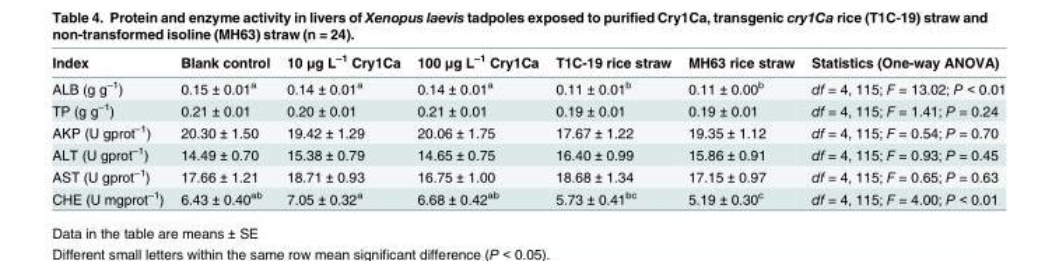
<table><thead><tr><td>Index</td><td>Blank control</td><td>10 μg L<sup>–1</sup> Cry1Ca</td><td>100 μg L<sup>–1</sup> Cry1Ca</td><td>T1C-19 rice straw</td><td>MH63 rice straw</td><td>Statistics (One-way ANOVA)</td></tr></thead><tbody><tr><td>ALB (g g<sup>–1</sup>)</td><td>0.15 ± 0.01<sup>a</sup></td><td>0.14 ± 0.01<sup>a</sup></td><td>0.14 ± 0.01<sup>a</sup></td><td>0.11 ± 0.01<sup>b</sup></td><td>0.11 ± 0.00<sup>b</sup></td><td>df = 4, 115; F = 13.02; P &lt; 0.01</td></tr><tr><td>TP (g g<sup>–1</sup>)</td><td>0.21 ± 0.01</td><td>0.20 ± 0.01</td><td>0.21 ± 0.01</td><td>0.19 ± 0.01</td><td>0.19 ± 0.01</td><td>df = 4, 115; F = 1.41; P = 0.24</td></tr><tr><td>AKP (U gprot<sup>–1</sup>)</td><td>20.30 ± 1.50</td><td>19.42 ± 1.29</td><td>20.06 ± 1.75</td><td>17.67 ± 1.22</td><td>19.35 ± 1.12</td><td>df = 4, 115; F = 0.54; P = 0.70</td></tr><tr><td>ALT (U gprot<sup>–1</sup>)</td><td>14.49 ± 0.70</td><td>15.38 ± 0.79</td><td>14.65 ± 0.75</td><td>16.40 ± 0.99</td><td>15.86 ± 0.91</td><td>df = 4, 115; F = 0.93; P = 0.45</td></tr><tr><td>AST (U gprot<sup>–1</sup>)</td><td>17.66 ± 1.21</td><td>18.71 ± 0.93</td><td>16.75 ± 1.00</td><td>18.68 ± 1.34</td><td>17.15 ± 0.97</td><td>df = 4, 115; F = 0.65; P = 0.63</td></tr><tr><td>CHE (U mgprot<sup>–1</sup>)</td><td>6.43 ± 0.40<sup>ab</sup></td><td>7.05 ± 0.32<sup>a</sup></td><td>6.68 ± 0.42<sup>ab</sup></td><td>5.73 ± 0.41<sup>bc</sup></td><td>5.19 ± 0.30<sup>c</sup></td><td>df = 4, 115; F = 4.00; P &lt; 0.01</td></tr></tbody></table>